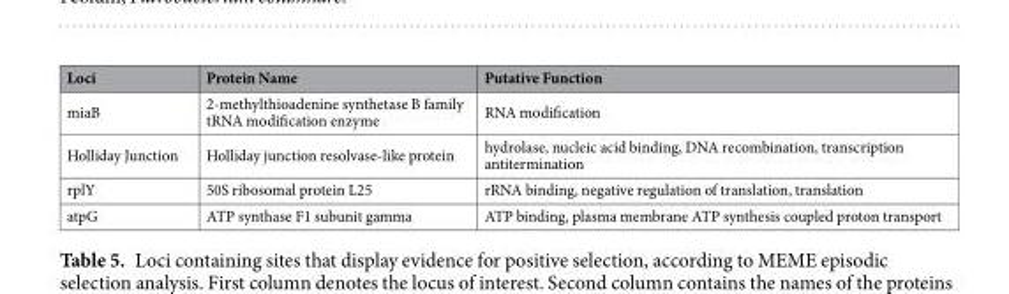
<table><thead><tr><td>Loci</td><td>Protein Name</td><td>Putative Function</td></tr></thead><tbody><tr><td>miaB</td><td>2-methylthioadenine synthetase B family tRNA modification enzyme</td><td>RNA modification</td></tr><tr><td>Holliday Junction</td><td>Holliday junction resolvase-like protein</td><td>hydrolase, nucleic acid binding, DNA recombination, transcription antitermination</td></tr><tr><td>rplY</td><td>50S ribosomal protein L25</td><td>rRNA binding, negative regulation of translation, translation</td></tr><tr><td>atpG</td><td>ATP synthase F1 subunit gamma</td><td>ATP binding, plasma membrane ATP synthesis coupled proton transport</td></tr></tbody></table>